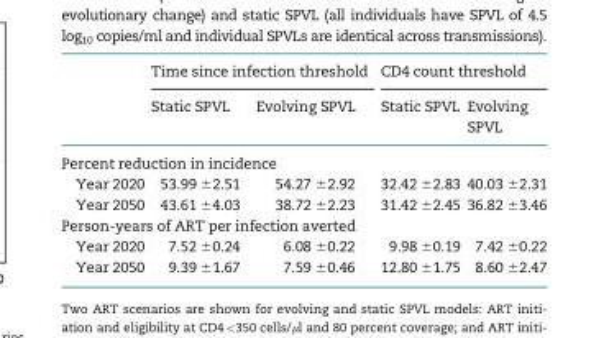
<table><thead><tr><td rowspan="2"></td><td colspan="2">Time since infection threshold</td><td colspan="2">CD4 count threshold</td></tr><tr><td>Static SPVL</td><td>Evolving SPVL</td><td>Static SPVL</td><td>Evolving SPVL</td></tr></thead><tbody><tr><td colspan="5">Percent reduction in incidence</td></tr><tr><td>Year 2020</td><td>53.99 ±2.51</td><td>54.27 ±2.92</td><td>32.42 ±2.83</td><td>40.03 ±2.31</td></tr><tr><td>Year 2050</td><td>43.61 ±4.03</td><td>38.72 ±2.23</td><td>31.42 ±2.45</td><td>36.82 ±3.46</td></tr><tr><td colspan="5">Person-years of ART per infection averted</td></tr><tr><td>Year 2020</td><td>7.52 ±0.24</td><td>6.08 ±0.22</td><td>9.98 ±0.19</td><td>7.42 ±0.22</td></tr><tr><td>Year 2050</td><td>9.39 ±1.67</td><td>7.59 ±0.46</td><td>12.80 ±1.75</td><td>8.60 ±2.47</td></tr></tbody></table>